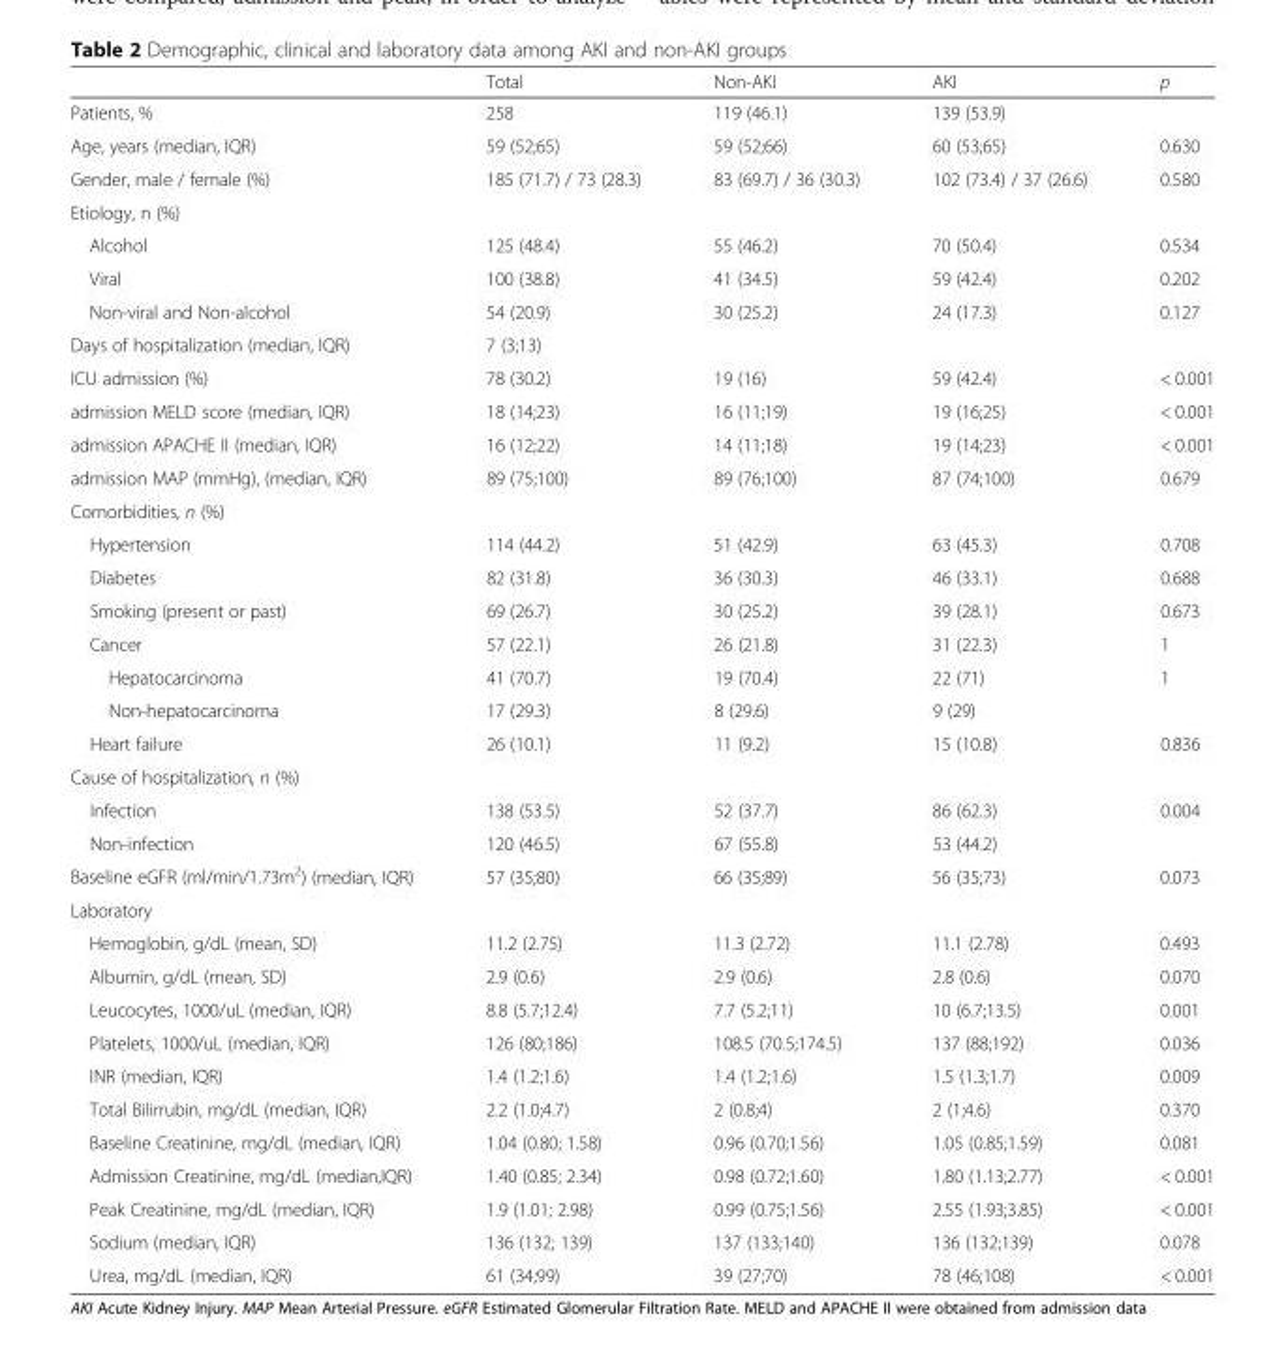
<table><thead><tr><td></td><td>Total</td><td>Non-AKI</td><td>AKI</td><td>p</td></tr></thead><tbody><tr><td>Patients, %</td><td>258</td><td>119 (46.1)</td><td>139 (53.9)</td><td></td></tr><tr><td>Age, years (median, IQR)</td><td>59 (52;65)</td><td>59 (52;66)</td><td>60 (53;65)</td><td>0.630</td></tr><tr><td>Gender, male / female (%)</td><td>185 (71.7) / 73 (28.3)</td><td>83 (69.7) / 36 (30.3)</td><td>102 (73.4) / 37 (26.6)</td><td>0.580</td></tr><tr><td colspan="5">Etiology, n (%)</td></tr><tr><td>Alcohol</td><td>125 (48.4)</td><td>55 (46.2)</td><td>70 (50.4)</td><td>0.534</td></tr><tr><td>Viral</td><td>100 (38.8)</td><td>41 (34.5)</td><td>59 (42.4)</td><td>0.202</td></tr><tr><td>Non-viral and Non-alcohol</td><td>54 (20.9)</td><td>30 (25.2)</td><td>24 (17.3)</td><td>0.127</td></tr><tr><td>Days of hospitalization (median, IQR)</td><td>7 (3;13)</td><td></td><td></td><td></td></tr><tr><td>ICU admission (%)</td><td>78 (30.2)</td><td>19 (16)</td><td>59 (42.4)</td><td>&lt; 0.001</td></tr><tr><td>admission MELD score (median, IQR)</td><td>18 (14;23)</td><td>16 (11;19)</td><td>19 (16;25)</td><td>&lt; 0.001</td></tr><tr><td>admission APACHE II (median, IQR)</td><td>16 (12;22)</td><td>14 (11;18)</td><td>19 (14;23)</td><td>&lt; 0.001</td></tr><tr><td>admission MAP (mmHg), (median, IQR)</td><td>89 (75;100)</td><td>89 (76;100)</td><td>87 (74;100)</td><td>0.679</td></tr><tr><td colspan="5">Comorbidities, n (%)</td></tr><tr><td>Hypertension</td><td>114 (44.2)</td><td>51 (42.9)</td><td>63 (45.3)</td><td>0.708</td></tr><tr><td>Diabetes</td><td>82 (31.8)</td><td>36 (30.3)</td><td>46 (33.1)</td><td>0.688</td></tr><tr><td>Smoking (present or past)</td><td>69 (26.7)</td><td>30 (25.2)</td><td>39 (28.1)</td><td>0.673</td></tr><tr><td>Cancer</td><td>57 (22.1)</td><td>26 (21.8)</td><td>31 (22.3)</td><td>1</td></tr><tr><td>Hepatocarcinoma</td><td>41 (70.7)</td><td>19 (70.4)</td><td>22 (71)</td><td>1</td></tr><tr><td>Non-hepatocarcinoma</td><td>17 (29.3)</td><td>8 (29.6)</td><td>9 (29)</td><td></td></tr><tr><td>Heart failure</td><td>26 (10.1)</td><td>11 (9.2)</td><td>15 (10.8)</td><td>0.836</td></tr><tr><td colspan="5">Cause of hospitalization, n (%)</td></tr><tr><td>Infection</td><td>138 (53.5)</td><td>52 (37.7)</td><td>86 (62.3)</td><td>0.004</td></tr><tr><td>Non-infection</td><td>120 (46.5)</td><td>67 (55.8)</td><td>53 (44.2)</td><td></td></tr><tr><td>Baseline eGFR (ml/min/1.73m<sup>2</sup>) (median, IQR)</td><td>57 (35;80)</td><td>66 (35;89)</td><td>56 (35;73)</td><td>0.073</td></tr><tr><td colspan="5">Laboratory</td></tr><tr><td>Hemoglobin, g/dL (mean, SD)</td><td>11.2 (2.75)</td><td>11.3 (2.72)</td><td>11.1 (2.78)</td><td>0.493</td></tr><tr><td>Albumin, g/dL (mean, SD)</td><td>2.9 (0.6)</td><td>2.9 (0.6)</td><td>2.8 (0.6)</td><td>0.070</td></tr><tr><td>Leucocytes, 1000/uL (median, IQR)</td><td>8.8 (5.7;12.4)</td><td>7.7 (5.2;11)</td><td>10 (6.7;13.5)</td><td>0.001</td></tr><tr><td>Platelets, 1000/uL (median, IQR)</td><td>126 (80;186)</td><td>108.5 (70.5;174.5)</td><td>137 (88;192)</td><td>0.036</td></tr><tr><td>INR (median, IQR)</td><td>1.4 (1.2;1.6)</td><td>1.4 (1.2;1.6)</td><td>1.5 (1.3;1.7)</td><td>0.009</td></tr><tr><td>Total Bilirrubin, mg/dL (median, IQR)</td><td>2.2 (1.0;4.7)</td><td>2 (0.8;4)</td><td>2 (1;4.6)</td><td>0.370</td></tr><tr><td>Baseline Creatinine, mg/dL (median, IQR)</td><td>1.04 (0.80; 1.58)</td><td>0.96 (0.70;1.56)</td><td>1.05 (0.85;1.59)</td><td>0.081</td></tr><tr><td>Admission Creatinine, mg/dL (median,IQR)</td><td>1.40 (0.85; 2.34)</td><td>0.98 (0.72;1.60)</td><td>1.80 (1.13;2.77)</td><td>&lt; 0.001</td></tr><tr><td>Peak Creatinine, mg/dL (median, IQR)</td><td>1.9 (1.01; 2.98)</td><td>0.99 (0.75;1.56)</td><td>2.55 (1.93;3.85)</td><td>&lt; 0.001</td></tr><tr><td>Sodium (median, IQR)</td><td>136 (132; 139)</td><td>137 (133;140)</td><td>136 (132;139)</td><td>0.078</td></tr><tr><td>Urea, mg/dL (median, IQR)</td><td>61 (34;99)</td><td>39 (27;70)</td><td>78 (46;108)</td><td>&lt; 0.001</td></tr></tbody></table>